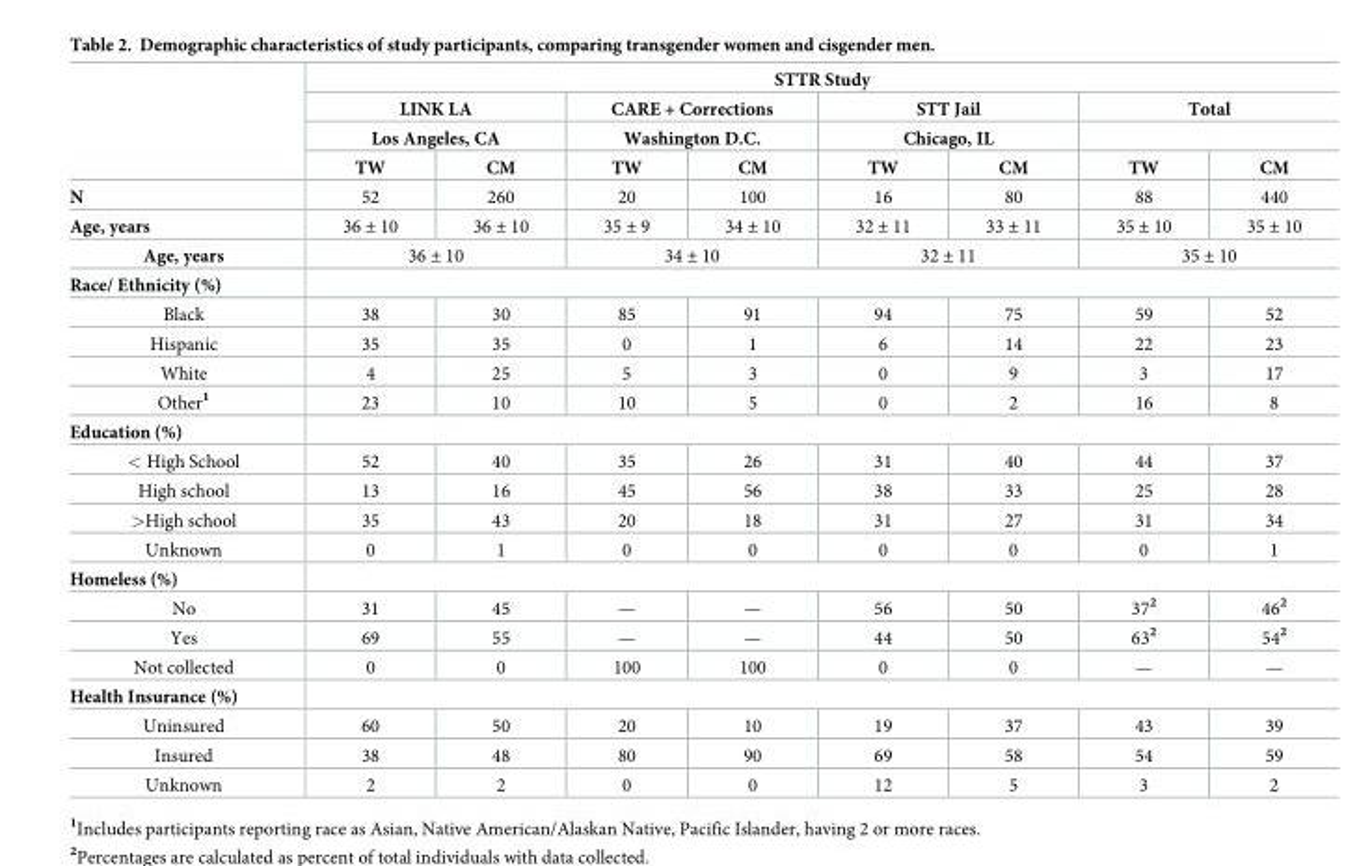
<table><thead><tr><td rowspan="4"></td><td colspan="8">STTR Study</td></tr><tr><td rowspan="2" colspan="2">LINK LA Los Angeles, CA</td><td rowspan="2" colspan="2">CARE + Corrections Washington D.C.</td><td rowspan="2" colspan="2">STT Jail Chicago, IL</td><td colspan="2">Total</td></tr><tr><td rowspan="2">TW</td><td rowspan="2">CM</td></tr><tr><td>TW</td><td>CM</td><td>TW</td><td>CM</td><td>TW</td><td>CM</td></tr></thead><tbody><tr><td>N</td><td>52</td><td>260</td><td>20</td><td>100</td><td>16</td><td>80</td><td>88</td><td>440</td></tr><tr><td>Age, years</td><td>36 ± 10</td><td>36 ± 10</td><td>35 ± 9</td><td>34 ± 10</td><td>32 ± 11</td><td>33 ± 11</td><td>35 ± 10</td><td>35 ± 10</td></tr><tr><td>Age, years</td><td colspan="2">36 ± 10</td><td colspan="2">34 ± 10</td><td colspan="2">32 ± 11</td><td colspan="2">35 ± 10</td></tr><tr><td colspan="9">Race/ Ethnicity (%)</td></tr><tr><td>Black</td><td>38</td><td>30</td><td>85</td><td>91</td><td>94</td><td>75</td><td>59</td><td>52</td></tr><tr><td>Hispanic</td><td>35</td><td>35</td><td>0</td><td>1</td><td>6</td><td>14</td><td>22</td><td>23</td></tr><tr><td>White</td><td>4</td><td>25</td><td>5</td><td>3</td><td>0</td><td>9</td><td>3</td><td>17</td></tr><tr><td>Other<sup>1</sup></td><td>23</td><td>10</td><td>10</td><td>5</td><td>0</td><td>2</td><td>16</td><td>8</td></tr><tr><td colspan="9">Education (%)</td></tr><tr><td>&lt; High School</td><td>52</td><td>40</td><td>35</td><td>26</td><td>31</td><td>40</td><td>44</td><td>37</td></tr><tr><td>High school</td><td>13</td><td>16</td><td>45</td><td>56</td><td>38</td><td>33</td><td>25</td><td>28</td></tr><tr><td>&gt;High school</td><td>35</td><td>43</td><td>20</td><td>18</td><td>31</td><td>27</td><td>31</td><td>34</td></tr><tr><td>Unknown</td><td>0</td><td>1</td><td>0</td><td>0</td><td>0</td><td>0</td><td>0</td><td>1</td></tr><tr><td colspan="9">Homeless (%)</td></tr><tr><td>No</td><td>31</td><td>45</td><td>—</td><td>—</td><td>56</td><td>50</td><td>37<sup>2</sup></td><td>46<sup>2</sup></td></tr><tr><td>Yes</td><td>69</td><td>55</td><td>—</td><td>—</td><td>44</td><td>50</td><td>63<sup>2</sup></td><td>54<sup>2</sup></td></tr><tr><td>Not collected</td><td>0</td><td>0</td><td>100</td><td>100</td><td>0</td><td>0</td><td>—</td><td>—</td></tr><tr><td colspan="9">Health Insurance (%)</td></tr><tr><td>Uninsured</td><td>60</td><td>50</td><td>20</td><td>10</td><td>19</td><td>37</td><td>43</td><td>39</td></tr><tr><td>Insured</td><td>38</td><td>48</td><td>80</td><td>90</td><td>69</td><td>58</td><td>54</td><td>59</td></tr><tr><td>Unknown</td><td>2</td><td>2</td><td>0</td><td>0</td><td>12</td><td>5</td><td>3</td><td>2</td></tr></tbody></table>